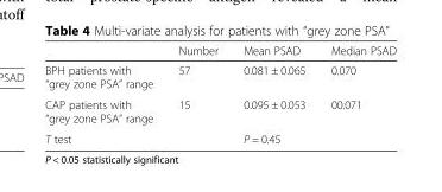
<table><thead><tr><td></td><td>Number</td><td>Mean PSAD</td><td>Median PSAD</td></tr></thead><tbody><tr><td>BPH patients with “grey zone PSA” range</td><td>57</td><td>0.081 ± 0.065</td><td>0.070</td></tr><tr><td>CAP patients with “grey zone PSA” range</td><td>15</td><td>0.095 ± 0.053</td><td>00.071</td></tr><tr><td>T test</td><td></td><td>P = 0.45</td><td></td></tr></tbody></table>